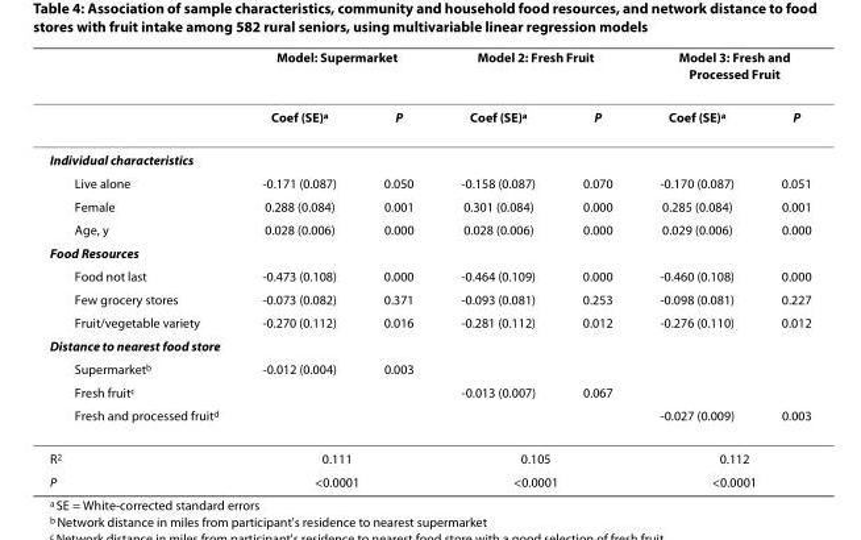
<table><thead><tr><td rowspan="2"></td><td colspan="2">Model: Supermarket</td><td colspan="2">Model 2: Fresh Fruit</td><td colspan="2">Model 3: Fresh and Processed Fruit</td></tr><tr><td>Coef (SE)<sup>a</sup></td><td>P</td><td>Coef (SE)<sup>a</sup></td><td>P</td><td>Coef (SE)<sup>a</sup></td><td>P</td></tr></thead><tbody><tr><td colspan="7">Individual characteristics</td></tr><tr><td>Live alone</td><td>-0.171 (0.087)</td><td>0.050</td><td>-0.158 (0.087)</td><td>0.070</td><td>-0.170 (0.087)</td><td>0.051</td></tr><tr><td>Female</td><td>0.288 (0.084)</td><td>0.001</td><td>0.301 (0.084)</td><td>0.000</td><td>0.285 (0.084)</td><td>0.001</td></tr><tr><td>Age, y</td><td>0.028 (0.006)</td><td>0.000</td><td>0.028 (0.006)</td><td>0.000</td><td>0.029 (0.006)</td><td>0.000</td></tr><tr><td colspan="7">Food Resources</td></tr><tr><td>Food not last</td><td>-0.473 (0.108)</td><td>0.000</td><td>-0.464 (0.109)</td><td>0.000</td><td>-0.460 (0.108)</td><td>0.000</td></tr><tr><td>Few grocery stores</td><td>-0.073 (0.082)</td><td>0.371</td><td>-0.093 (0.081)</td><td>0.253</td><td>-0.098 (0.081)</td><td>0.227</td></tr><tr><td>Fruit/vegetable variety</td><td>-0.270 (0.112)</td><td>0.016</td><td>-0.281 (0.112)</td><td>0.012</td><td>-0.276 (0.110)</td><td>0.012</td></tr><tr><td colspan="7">Distance to nearest food store</td></tr><tr><td>Supermarket<sup>b</sup></td><td>-0.012 (0.004)</td><td>0.003</td><td></td><td></td><td></td><td></td></tr><tr><td>Fresh fruit<sup>c</sup></td><td></td><td></td><td>-0.013 (0.007)</td><td>0.067</td><td></td><td></td></tr><tr><td>Fresh and processed fruit<sup>d</sup></td><td></td><td></td><td></td><td></td><td>-0.027 (0.009)</td><td>0.003</td></tr><tr><td>R<sup>2</sup></td><td colspan="2">0.111</td><td colspan="2">0.105</td><td colspan="2">0.112</td></tr><tr><td>P</td><td colspan="2">&lt;0.0001</td><td colspan="2">&lt;0.0001</td><td colspan="2">&lt;0.0001</td></tr></tbody></table>